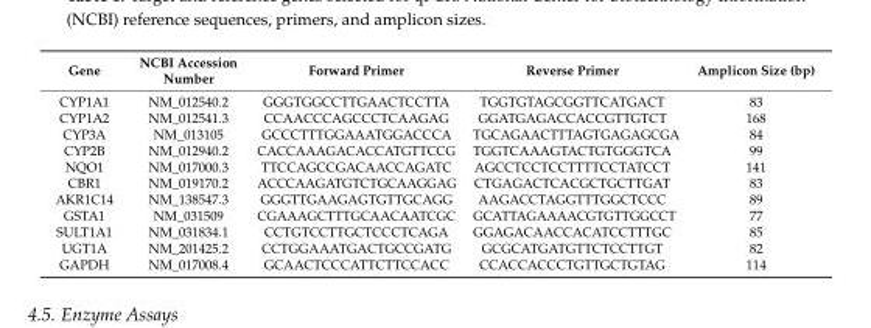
<table><thead><tr><td>Gene</td><td>NCBI Accession Number</td><td>Forward Primer</td><td>Reverse Primer</td><td>Amplicon Size (bp)</td></tr></thead><tbody><tr><td>CYP1A1</td><td>NM_012540.2</td><td>GGGTGGCCTTGAACTCCTTA</td><td>TGGTGTAGCGGTTCATGACT</td><td>83</td></tr><tr><td>CYP1A2</td><td>NM_012541.3</td><td>CCAACCCAGCCCTCAAGAG</td><td>GGATGAGACCACCGTTGTCT</td><td>168</td></tr><tr><td>CYP3A</td><td>NM_013105</td><td>GCCCTTTGGAAATGGACCCA</td><td>TGCAGAACTTTAGTGAGAGCGA</td><td>84</td></tr><tr><td>CYP2B</td><td>NM_012940.2</td><td>CACCAAAGACACCATGTTCCG</td><td>TGGTCAAAGTACTGTGGGTCA</td><td>99</td></tr><tr><td>NQO1</td><td>NM_017000.3</td><td>TTCCAGCCGACAACCAGATC</td><td>AGCCTCCTCCTTTTCCTATCCT</td><td>141</td></tr><tr><td>CBR1</td><td>NM_019170.2</td><td>ACCCAAGATGTCTGCAAGGAG</td><td>CTGAGACTCACGCTGCTTGAT</td><td>83</td></tr><tr><td>AKR1C14</td><td>NM_138547.3</td><td>GGGTTGAAGAGTGTTGCAGG</td><td>AAGACCTAGGTTTGGCTCCC</td><td>89</td></tr><tr><td>GSTA1</td><td>NM_031509</td><td>CGAAAGCTTTGCAACAATCGC</td><td>GCATTAGAAAACGTGTTGGCCT</td><td>77</td></tr><tr><td>SULT1A1</td><td>NM_031834.1</td><td>CCTGTCCTTGCTCCCTCAGA</td><td>GGAGACAACCACATCCTTTGC</td><td>85</td></tr><tr><td>UGT1A</td><td>NM_201425.2</td><td>CCTGGAAATGACTGCCGATG</td><td>GCGCATGATGTTCTCCTTGT</td><td>82</td></tr><tr><td>GAPDH</td><td>NM_017008.4</td><td>GCAACTCCCATTCTTCCACC</td><td>CCACCACCCTGTTGCTGTAG</td><td>114</td></tr></tbody></table>